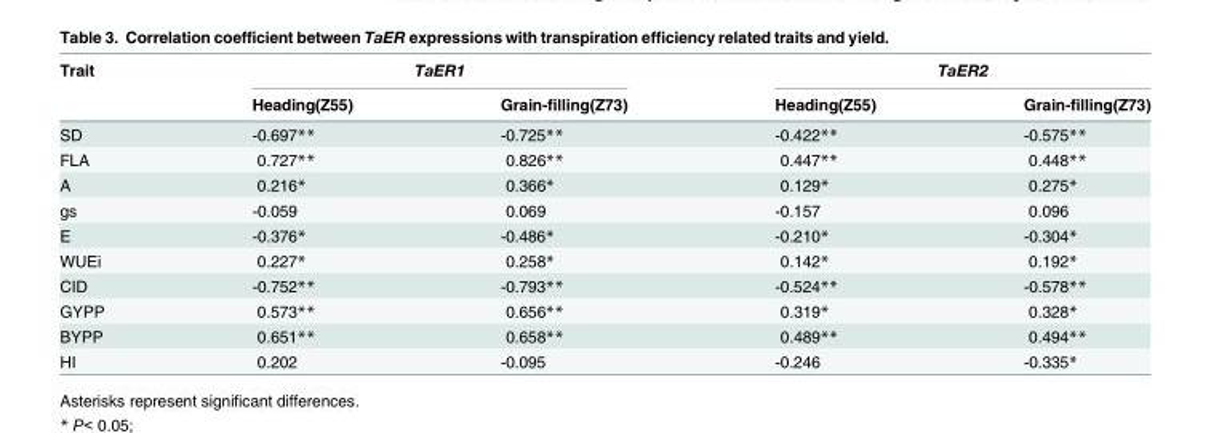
<table><thead><tr><td rowspan="2">Trait</td><td colspan="2">TaER1</td><td colspan="2">TaER2</td></tr><tr><td>Heading(Z55)</td><td>Grain-filling(Z73)</td><td>Heading(Z55)</td><td>Grain-filling(Z73)</td></tr></thead><tbody><tr><td>SD</td><td>-0.697**</td><td>-0.725**</td><td>-0.422**</td><td>-0.575**</td></tr><tr><td>FLA</td><td>0.727**</td><td>0.826**</td><td>0.447**</td><td>0.448**</td></tr><tr><td>A</td><td>0.216*</td><td>0.366*</td><td>0.129*</td><td>0.275*</td></tr><tr><td>gs</td><td>-0.059</td><td>0.069</td><td>-0.157</td><td>0.096</td></tr><tr><td>E</td><td>-0.376*</td><td>-0.486*</td><td>-0.210*</td><td>-0.304*</td></tr><tr><td>WUEi</td><td>0.227*</td><td>0.258*</td><td>0.142*</td><td>0.192*</td></tr><tr><td>CID</td><td>-0.752**</td><td>-0.793**</td><td>-0.524**</td><td>-0.578**</td></tr><tr><td>GYPP</td><td>0.573**</td><td>0.656**</td><td>0.319*</td><td>0.328*</td></tr><tr><td>BYPP</td><td>0.651**</td><td>0.658**</td><td>0.489**</td><td>0.494**</td></tr><tr><td>HI</td><td>0.202</td><td>-0.095</td><td>-0.246</td><td>-0.335*</td></tr></tbody></table>